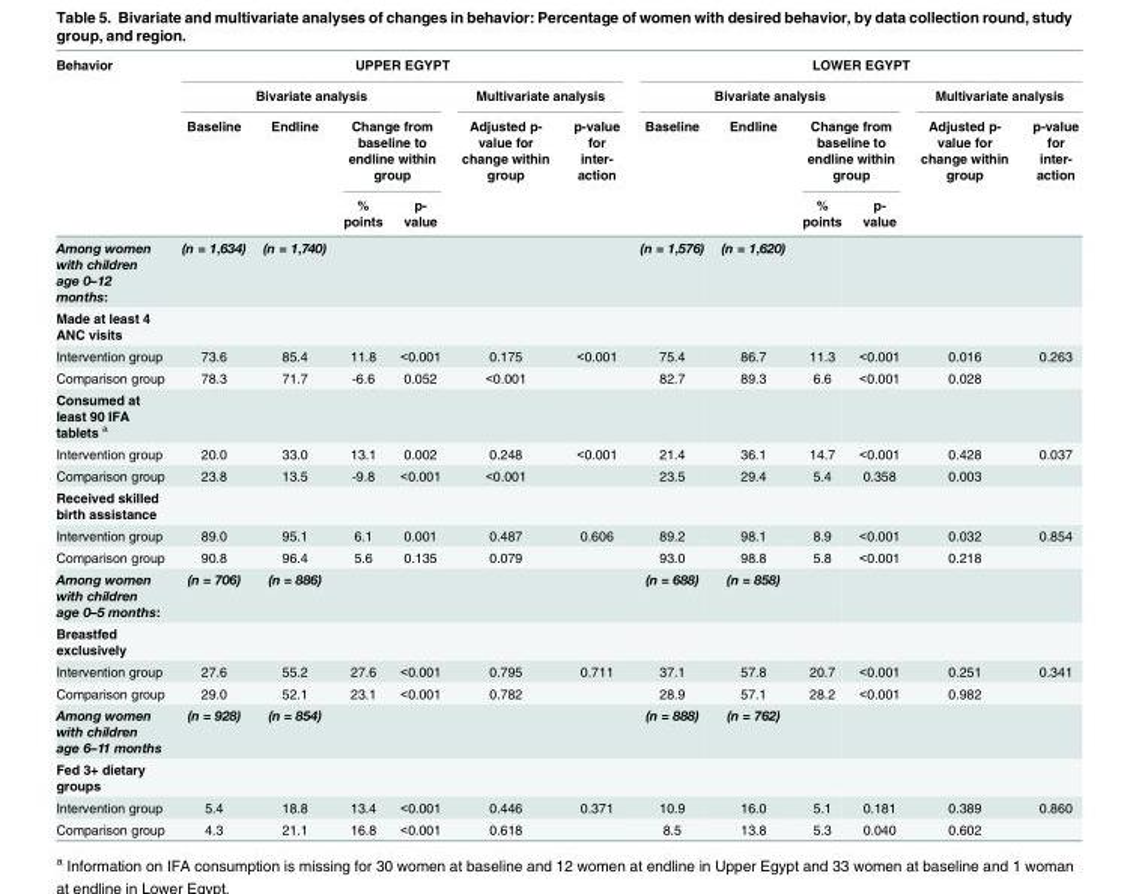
<table><thead><tr><td rowspan="4">Behavior</td><td colspan="6">UPPER EGYPT</td><td colspan="6">LOWER EGYPT</td></tr><tr><td colspan="4">Bivariate analysis</td><td colspan="2">Multivariate analysis</td><td colspan="4">Bivariate analysis</td><td colspan="2">Multivariate analysis</td></tr><tr><td rowspan="2">Baseline</td><td rowspan="2">Endline</td><td colspan="2">Change from baseline to endline within group</td><td rowspan="2">Adjusted p- value for change within group</td><td rowspan="2">p-value for inter- action</td><td rowspan="2">Baseline</td><td rowspan="2">Endline</td><td colspan="2">Change from baseline to endline within group</td><td rowspan="2">Adjusted p- value for change within group</td><td rowspan="2">p-value for inter- action</td></tr><tr><td>% points</td><td>p- value</td><td>% points</td><td>p- value</td></tr></thead><tbody><tr><td>Among women with children age 0–12 months:</td><td>(n = 1,634)</td><td>(n = 1,740)</td><td></td><td></td><td></td><td></td><td>(n = 1,576)</td><td>(n = 1,620)</td><td></td><td></td><td></td><td></td></tr><tr><td colspan="13">Made at least 4 ANC visits</td></tr><tr><td>Intervention group</td><td>73.6</td><td>85.4</td><td>11.8</td><td>&lt;0.001</td><td>0.175</td><td>&lt;0.001</td><td>75.4</td><td>86.7</td><td>11.3</td><td>&lt;0.001</td><td>0.016</td><td>0.263</td></tr><tr><td>Comparison group</td><td>78.3</td><td>71.7</td><td>-6.6</td><td>0.052</td><td>&lt;0.001</td><td></td><td>82.7</td><td>89.3</td><td>6.6</td><td>&lt;0.001</td><td>0.028</td><td></td></tr><tr><td colspan="13">Consumed at least 90 IFA tablets <sup>a</sup></td></tr><tr><td>Intervention group</td><td>20.0</td><td>33.0</td><td>13.1</td><td>0.002</td><td>0.248</td><td>&lt;0.001</td><td>21.4</td><td>36.1</td><td>14.7</td><td>&lt;0.001</td><td>0.428</td><td>0.037</td></tr><tr><td>Comparison group</td><td>23.8</td><td>13.5</td><td>-9.8</td><td>&lt;0.001</td><td>&lt;0.001</td><td></td><td>23.5</td><td>29.4</td><td>5.4</td><td>0.358</td><td>0.003</td><td></td></tr><tr><td colspan="13">Received skilled birth assistance</td></tr><tr><td>Intervention group</td><td>89.0</td><td>95.1</td><td>6.1</td><td>0.001</td><td>0.487</td><td>0.606</td><td>89.2</td><td>98.1</td><td>8.9</td><td>&lt;0.001</td><td>0.032</td><td>0.854</td></tr><tr><td>Comparison group</td><td>90.8</td><td>96.4</td><td>5.6</td><td>0.135</td><td>0.079</td><td></td><td>93.0</td><td>98.8</td><td>5.8</td><td>&lt;0.001</td><td>0.218</td><td></td></tr><tr><td>Among women with children age 0–5 months:</td><td>(n = 706)</td><td>(n = 886)</td><td></td><td></td><td></td><td></td><td>(n = 688)</td><td>(n = 858)</td><td></td><td></td><td></td><td></td></tr><tr><td colspan="13">Breastfed exclusively</td></tr><tr><td>Intervention group</td><td>27.6</td><td>55.2</td><td>27.6</td><td>&lt;0.001</td><td>0.795</td><td>0.711</td><td>37.1</td><td>57.8</td><td>20.7</td><td>&lt;0.001</td><td>0.251</td><td>0.341</td></tr><tr><td>Comparison group</td><td>29.0</td><td>52.1</td><td>23.1</td><td>&lt;0.001</td><td>0.782</td><td></td><td>28.9</td><td>57.1</td><td>28.2</td><td>&lt;0.001</td><td>0.982</td><td></td></tr><tr><td>Among women with children age 6–11 months</td><td>(n = 928)</td><td>(n = 854)</td><td></td><td></td><td></td><td></td><td>(n = 888)</td><td>(n = 762)</td><td></td><td></td><td></td><td></td></tr><tr><td colspan="13">Fed 3+ dietary groups</td></tr><tr><td>Intervention group</td><td>5.4</td><td>18.8</td><td>13.4</td><td>&lt;0.001</td><td>0.446</td><td>0.371</td><td>10.9</td><td>16.0</td><td>5.1</td><td>0.181</td><td>0.389</td><td>0.860</td></tr><tr><td>Comparison group</td><td>4.3</td><td>21.1</td><td>16.8</td><td>&lt;0.001</td><td>0.618</td><td></td><td>8.5</td><td>13.8</td><td>5.3</td><td>0.040</td><td>0.602</td><td></td></tr></tbody></table>